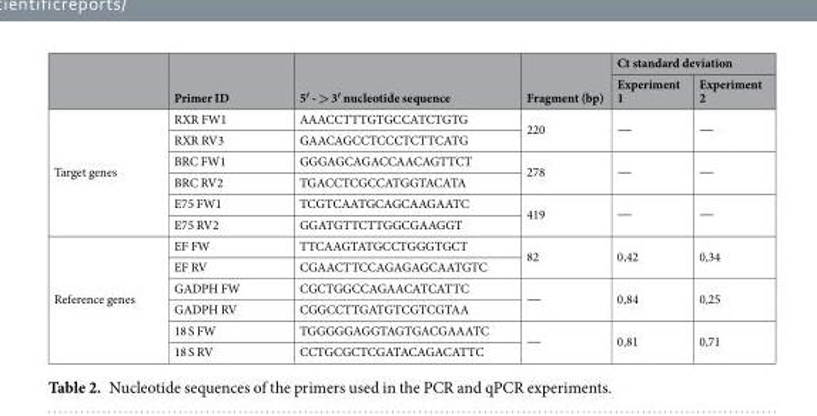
<table><thead><tr><td rowspan="2"></td><td rowspan="2">Primer ID</td><td rowspan="2">5′ - &gt; 3′ nucleotide sequence</td><td rowspan="2">Fragment (bp)</td><td colspan="2">Ct standard deviation</td></tr><tr><td>Experiment 1</td><td>Experiment 2</td></tr></thead><tbody><tr><td rowspan="6">Target genes</td><td>RXR FW1</td><td>AAACCTTTGTGCCATCTGTG</td><td rowspan="2">220</td><td rowspan="2">̶</td><td rowspan="2">̶</td></tr><tr><td>RXR RV3</td><td>GAACAGCCTCCCTCTTCATG</td></tr><tr><td>BRC FW1</td><td>GGGAGCAGACCAACAGTTCT</td><td rowspan="2">278</td><td rowspan="2">̶</td><td rowspan="2">̶</td></tr><tr><td>BRC RV2</td><td>TGACCTCGCCATGGTACATA</td></tr><tr><td>E75 FW1</td><td>TCGTCAATGCAGCAAGAATC</td><td rowspan="2">419</td><td rowspan="2">̶</td><td rowspan="2">̶</td></tr><tr><td>E75 RV2</td><td>GGATGTTCTTGGCGAAGGT</td></tr><tr><td rowspan="6">Reference genes</td><td>EF FW</td><td>TTCAAGTATGCCTGGGTGCT</td><td rowspan="2">82</td><td rowspan="2">0,42</td><td rowspan="2">0,34</td></tr><tr><td>EF RV</td><td>CGAACTTCCAGAGAGCAATGTC</td></tr><tr><td>GADPH FW</td><td>CGCTGGCCAGAACATCATTC</td><td rowspan="2">̶</td><td rowspan="2">0,84</td><td rowspan="2">0,25</td></tr><tr><td>GADPH RV</td><td>CGGCCTTGATGTCGTCGTAA</td></tr><tr><td>18 S FW</td><td>TGGGGGAGGTAGTGACGAAATC</td><td rowspan="2">̶</td><td rowspan="2">0,81</td><td rowspan="2">0,71</td></tr><tr><td>18 S RV</td><td>CCTGCGCTCGATACAGACATTC</td></tr></tbody></table>